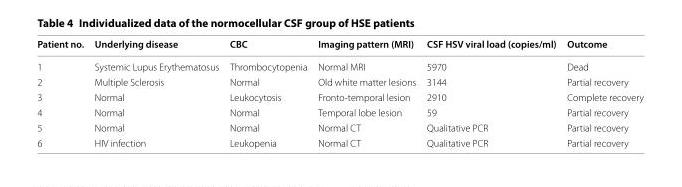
<table><thead><tr><td>Patient no.</td><td>Underlying disease</td><td>CBC</td><td>Imaging pattern (MRI)</td><td>CSF HSV viral load (copies/ml)</td><td>Outcome</td></tr></thead><tbody><tr><td>1</td><td>Systemic Lupus Erythematosus</td><td>Thrombocytopenia</td><td>Normal MRI</td><td>5970</td><td>Dead</td></tr><tr><td>2</td><td>Multiple Sclerosis</td><td>Normal</td><td>Old white matter lesions</td><td>3144</td><td>Partial recovery</td></tr><tr><td>3</td><td>Normal</td><td>Leukocytosis</td><td>Fronto-temporal lesion</td><td>2910</td><td>Complete recovery</td></tr><tr><td>4</td><td>Normal</td><td>Normal</td><td>Temporal lobe lesion</td><td>59</td><td>Partial recovery</td></tr><tr><td>5</td><td>Normal</td><td>Normal</td><td>Normal CT</td><td>Qualitative PCR</td><td>Partial recovery</td></tr><tr><td>6</td><td>HIV infection</td><td>Leukopenia</td><td>Normal CT</td><td>Qualitative PCR</td><td>Partial recovery</td></tr></tbody></table>